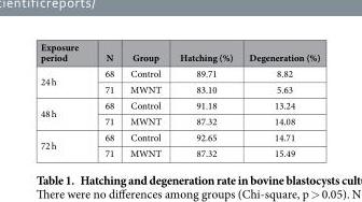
<table><thead><tr><td>Exposure period</td><td>N</td><td>Group</td><td>Hatching (%)</td><td>Degeneration (%)</td></tr></thead><tbody><tr><td rowspan="2">24 h</td><td>68</td><td>Control</td><td>89.71</td><td>8.82</td></tr><tr><td>71</td><td>MWNT</td><td>83.10</td><td>5.63</td></tr><tr><td rowspan="2">48 h</td><td>68</td><td>Control</td><td>91.18</td><td>13.24</td></tr><tr><td>71</td><td>MWNT</td><td>87.32</td><td>14.08</td></tr><tr><td rowspan="2">72 h</td><td>68</td><td>Control</td><td>92.65</td><td>14.71</td></tr><tr><td>71</td><td>MWNT</td><td>87.32</td><td>15.49</td></tr></tbody></table>